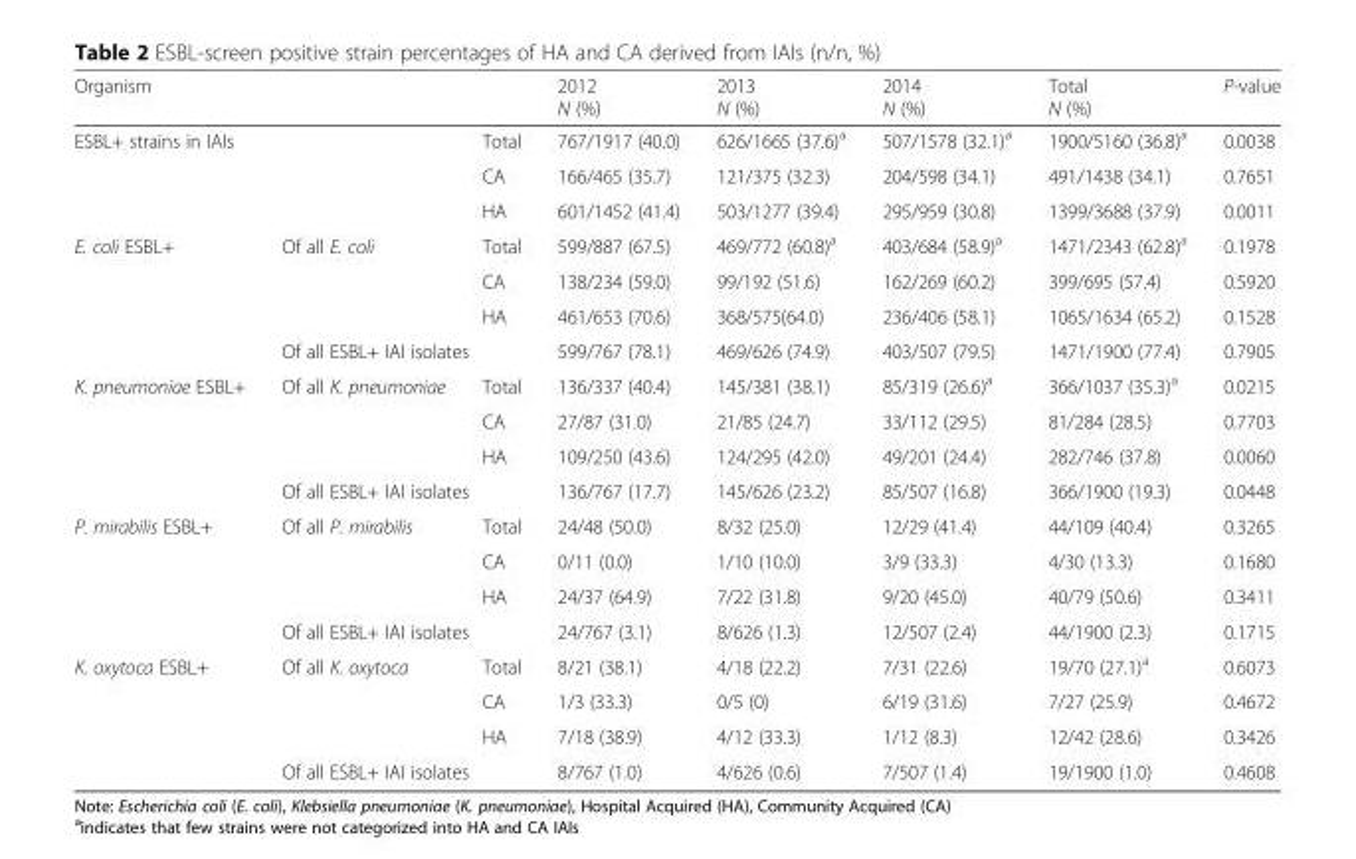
<table><thead><tr><td>Organism</td><td></td><td></td><td>2012 N (%)</td><td>2013 N (%)</td><td>2014 N (%)</td><td>Total N (%)</td><td>P-value</td></tr></thead><tbody><tr><td rowspan="3" colspan="2">ESBL+ strains in IAIs</td><td>Total</td><td>767/1917 (40.0)</td><td>626/1665 (37.6)<sup>a</sup></td><td>507/1578 (32.1)<sup>a</sup></td><td>1900/5160 (36.8)<sup>a</sup></td><td>0.0038</td></tr><tr><td>CA</td><td>166/465 (35.7)</td><td>121/375 (32.3)</td><td>204/598 (34.1)</td><td>491/1438 (34.1)</td><td>0.7651</td></tr><tr><td>HA</td><td>601/1452 (41.4)</td><td>503/1277 (39.4)</td><td>295/959 (30.8)</td><td>1399/3688 (37.9)</td><td>0.0011</td></tr><tr><td rowspan="4">E. coli ESBL+</td><td rowspan="3">Of all E. coli</td><td>Total</td><td>599/887 (67.5)</td><td>469/772 (60.8)<sup>a</sup></td><td>403/684 (58.9)<sup>a</sup></td><td>1471/2343 (62.8)<sup>a</sup></td><td>0.1978</td></tr><tr><td>CA</td><td>138/234 (59.0)</td><td>99/192 (51.6)</td><td>162/269 (60.2)</td><td>399/695 (57.4)</td><td>0.5920</td></tr><tr><td>HA</td><td>461/653 (70.6)</td><td>368/575(64.0)</td><td>236/406 (58.1)</td><td>1065/1634 (65.2)</td><td>0.1528</td></tr><tr><td colspan="2">Of all ESBL+ IAI isolates</td><td>599/767 (78.1)</td><td>469/626 (74.9)</td><td>403/507 (79.5)</td><td>1471/1900 (77.4)</td><td>0.7905</td></tr><tr><td rowspan="4">K. pneumoniae ESBL+</td><td rowspan="3">Of all K. pneumoniae</td><td>Total</td><td>136/337 (40.4)</td><td>145/381 (38.1)</td><td>85/319 (26.6)<sup>a</sup></td><td>366/1037 (35.3)<sup>a</sup></td><td>0.0215</td></tr><tr><td>CA</td><td>27/87 (31.0)</td><td>21/85 (24.7)</td><td>33/112 (29.5)</td><td>81/284 (28.5)</td><td>0.7703</td></tr><tr><td>HA</td><td>109/250 (43.6)</td><td>124/295 (42.0)</td><td>49/201 (24.4)</td><td>282/746 (37.8)</td><td>0.0060</td></tr><tr><td colspan="2">Of all ESBL+ IAI isolates</td><td>136/767 (17.7)</td><td>145/626 (23.2)</td><td>85/507 (16.8)</td><td>366/1900 (19.3)</td><td>0.0448</td></tr><tr><td rowspan="4">P. mirabilis ESBL+</td><td rowspan="3">Of all P. mirabilis</td><td>Total</td><td>24/48 (50.0)</td><td>8/32 (25.0)</td><td>12/29 (41.4)</td><td>44/109 (40.4)</td><td>0.3265</td></tr><tr><td>CA</td><td>0/11 (0.0)</td><td>1/10 (10.0)</td><td>3/9 (33.3)</td><td>4/30 (13.3)</td><td>0.1680</td></tr><tr><td>HA</td><td>24/37 (64.9)</td><td>7/22 (31.8)</td><td>9/20 (45.0)</td><td>40/79 (50.6)</td><td>0.3411</td></tr><tr><td colspan="2">Of all ESBL+ IAI isolates</td><td>24/767 (3.1)</td><td>8/626 (1.3)</td><td>12/507 (2.4)</td><td>44/1900 (2.3)</td><td>0.1715</td></tr><tr><td rowspan="4">K. oxytoca ESBL+</td><td rowspan="3">Of all K. oxytoca</td><td>Total</td><td>8/21 (38.1)</td><td>4/18 (22.2)</td><td>7/31 (22.6)</td><td>19/70 (27.1)<sup>a</sup></td><td>0.6073</td></tr><tr><td>CA</td><td>1/3 (33.3)</td><td>0/5 (0)</td><td>6/19 (31.6)</td><td>7/27 (25.9)</td><td>0.4672</td></tr><tr><td>HA</td><td>7/18 (38.9)</td><td>4/12 (33.3)</td><td>1/12 (8.3)</td><td>12/42 (28.6)</td><td>0.3426</td></tr><tr><td colspan="2">Of all ESBL+ IAI isolates</td><td>8/767 (1.0)</td><td>4/626 (0.6)</td><td>7/507 (1.4)</td><td>19/1900 (1.0)</td><td>0.4608</td></tr></tbody></table>